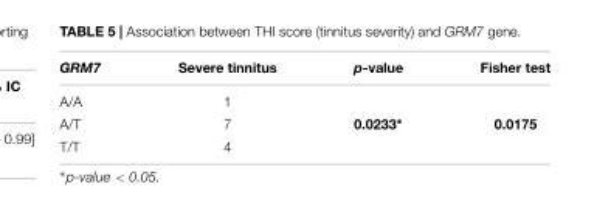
<table><thead><tr><td>GRM7</td><td>Severe tinnitus</td><td>p-value</td><td>Fisher test</td></tr></thead><tbody><tr><td>A/A</td><td>1</td><td></td><td></td></tr><tr><td>A/T</td><td>7</td><td>0.0233∗</td><td>0.0175</td></tr><tr><td>T/T</td><td>4</td><td></td><td></td></tr></tbody></table>